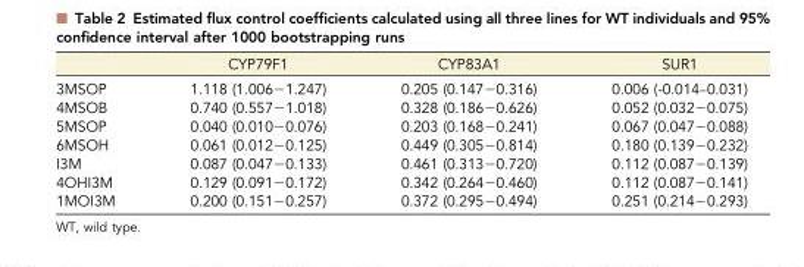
<table><thead><tr><td></td><td>CYP79F1</td><td>CYP83A1</td><td>SUR1</td></tr></thead><tbody><tr><td>3MSOP</td><td>1.118 (1.006−1.247)</td><td>0.205 (0.147−0.316)</td><td>0.006 (-0.014–0.031)</td></tr><tr><td>4MSOB</td><td>0.740 (0.557−1.018)</td><td>0.328 (0.186−0.626)</td><td>0.052 (0.032−0.075)</td></tr><tr><td>5MSOP</td><td>0.040 (0.010−0.076)</td><td>0.203 (0.168−0.241)</td><td>0.067 (0.047−0.088)</td></tr><tr><td>6MSOH</td><td>0.061 (0.012−0.125)</td><td>0.449 (0.305−0.814)</td><td>0.180 (0.139−0.232)</td></tr><tr><td>I3M</td><td>0.087 (0.047−0.133)</td><td>0.461 (0.313−0.720)</td><td>0.112 (0.087−0.139)</td></tr><tr><td>4OHI3M</td><td>0.129 (0.091−0.172)</td><td>0.342 (0.264−0.460)</td><td>0.112 (0.087−0.141)</td></tr><tr><td>1MOI3M</td><td>0.200 (0.151−0.257)</td><td>0.372 (0.295−0.494)</td><td>0.251 (0.214−0.293)</td></tr></tbody></table>